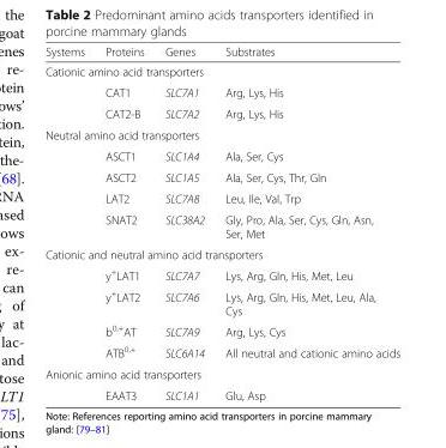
<table><thead><tr><td>Systems</td><td>Proteins</td><td>Genes</td><td>Substrates</td></tr></thead><tbody><tr><td colspan="4">Cationic amino acid transporters</td></tr><tr><td></td><td>CAT1</td><td>SLC7A1</td><td>Arg, Lys, His</td></tr><tr><td></td><td>CAT2-B</td><td>SLC7A2</td><td>Arg, Lys, His</td></tr><tr><td colspan="4">Neutral amino acid transporters</td></tr><tr><td></td><td>ASCT1</td><td>SLC1A4</td><td>Ala, Ser, Cys</td></tr><tr><td></td><td>ASCT2</td><td>SLC1A5</td><td>Ala, Ser, Cys, Thr, Gln</td></tr><tr><td></td><td>LAT2</td><td>SLC7A8</td><td>Leu, Ile, Val, Trp</td></tr><tr><td></td><td>SNAT2</td><td>SLC38A2</td><td>Gly, Pro, Ala, Ser, Cys, Gln, Asn, Ser, Met</td></tr><tr><td colspan="4">Cationic and neutral amino acid transporters</td></tr><tr><td></td><td>y<sup>+</sup>LAT1</td><td>SLC7A7</td><td>Lys, Arg, Gln, His, Met, Leu</td></tr><tr><td></td><td>y<sup>+</sup>LAT2</td><td>SLC7A6</td><td>Lys, Arg, Gln, His, Met, Leu, Ala, Cys</td></tr><tr><td></td><td>b<sup>0,+</sup>AT</td><td>SLC7A9</td><td>Arg, Lys, Cys</td></tr><tr><td></td><td>ATB<sup>0,+</sup></td><td>SLC6A14</td><td>All neutral and cationic amino acids</td></tr><tr><td colspan="4">Anionic amino acid transporters</td></tr><tr><td></td><td>EAAT3</td><td>SLC1A1</td><td>Glu, Asp</td></tr></tbody></table>